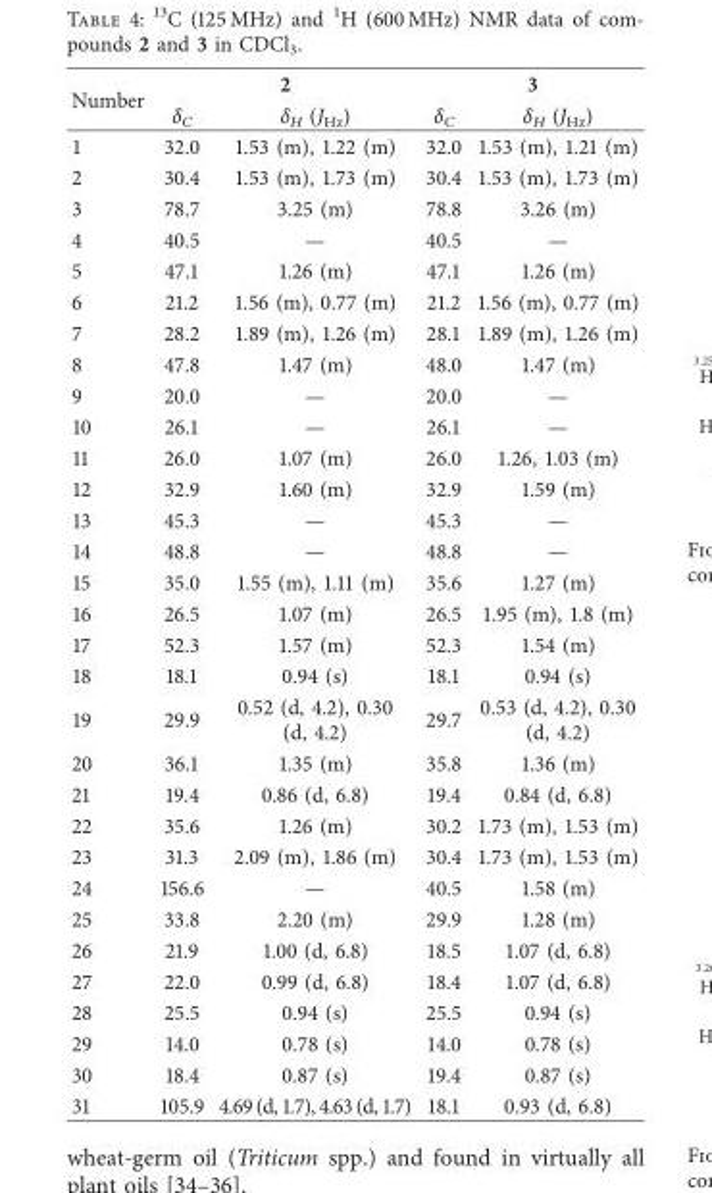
<table><thead><tr><td rowspan="2">Number</td><td colspan="2">2</td><td colspan="2">3</td></tr><tr><td>δ<sub>C</sub></td><td>δ<sub>H</sub> (J<sub>Hz</sub>)</td><td>δ<sub>C</sub></td><td>δ<sub>H</sub> (J<sub>Hz</sub>)</td></tr></thead><tbody><tr><td>1</td><td>32.0</td><td>1.53 (m), 1.22 (m)</td><td>32.0</td><td>1.53 (m), 1.21 (m)</td></tr><tr><td>2</td><td>30.4</td><td>1.53 (m), 1.73 (m)</td><td>30.4</td><td>1.53 (m), 1.73 (m)</td></tr><tr><td>3</td><td>78.7</td><td>3.25 (m)</td><td>78.8</td><td>3.26 (m)</td></tr><tr><td>4</td><td>40.5</td><td>—</td><td>40.5</td><td>—</td></tr><tr><td>5</td><td>47.1</td><td>1.26 (m)</td><td>47.1</td><td>1.26 (m)</td></tr><tr><td>6</td><td>21.2</td><td>1.56 (m), 0.77 (m)</td><td>21.2</td><td>1.56 (m), 0.77 (m)</td></tr><tr><td>7</td><td>28.2</td><td>1.89 (m), 1.26 (m)</td><td>28.1</td><td>1.89 (m), 1.26 (m)</td></tr><tr><td>8</td><td>47.8</td><td>1.47 (m)</td><td>48.0</td><td>1.47 (m)</td></tr><tr><td>9</td><td>20.0</td><td>—</td><td>20.0</td><td>—</td></tr><tr><td>10</td><td>26.1</td><td>—</td><td>26.1</td><td>—</td></tr><tr><td>11</td><td>26.0</td><td>1.07 (m)</td><td>26.0</td><td>1.26, 1.03 (m)</td></tr><tr><td>12</td><td>32.9</td><td>1.60 (m)</td><td>32.9</td><td>1.59 (m)</td></tr><tr><td>13</td><td>45.3</td><td>—</td><td>45.3</td><td>—</td></tr><tr><td>14</td><td>48.8</td><td>—</td><td>48.8</td><td>—</td></tr><tr><td>15</td><td>35.0</td><td>1.55 (m), 1.11 (m)</td><td>35.6</td><td>1.27 (m)</td></tr><tr><td>16</td><td>26.5</td><td>1.07 (m)</td><td>26.5</td><td>1.95 (m), 1.8 (m)</td></tr><tr><td>17</td><td>52.3</td><td>1.57 (m)</td><td>52.3</td><td>1.54 (m)</td></tr><tr><td>18</td><td>18.1</td><td>0.94 (s)</td><td>18.1</td><td>0.94 (s)</td></tr><tr><td>19</td><td>29.9</td><td>0.52 (d, 4.2), 0.30 (d, 4.2)</td><td>29.7</td><td>0.53 (d, 4.2), 0.30 (d, 4.2)</td></tr><tr><td>20</td><td>36.1</td><td>1.35 (m)</td><td>35.8</td><td>1.36 (m)</td></tr><tr><td>21</td><td>19.4</td><td>0.86 (d, 6.8)</td><td>19.4</td><td>0.84 (d, 6.8)</td></tr><tr><td>22</td><td>35.6</td><td>1.26 (m)</td><td>30.2</td><td>1.73 (m), 1.53 (m)</td></tr><tr><td>23</td><td>31.3</td><td>2.09 (m), 1.86 (m)</td><td>30.4</td><td>1.73 (m), 1.53 (m)</td></tr><tr><td>24</td><td>156.6</td><td>—</td><td>40.5</td><td>1.58 (m)</td></tr><tr><td>25</td><td>33.8</td><td>2.20 (m)</td><td>29.9</td><td>1.28 (m)</td></tr><tr><td>26</td><td>21.9</td><td>1.00 (d, 6.8)</td><td>18.5</td><td>1.07 (d, 6.8)</td></tr><tr><td>27</td><td>22.0</td><td>0.99 (d, 6.8)</td><td>18.4</td><td>1.07 (d, 6.8)</td></tr><tr><td>28</td><td>25.5</td><td>0.94 (s)</td><td>25.5</td><td>0.94 (s)</td></tr><tr><td>29</td><td>14.0</td><td>0.78 (s)</td><td>14.0</td><td>0.78 (s)</td></tr><tr><td>30</td><td>18.4</td><td>0.87 (s)</td><td>19.4</td><td>0.87 (s)</td></tr><tr><td>31</td><td>105.9</td><td>4.69 (d, 1.7), 4.63 (d, 1.7)</td><td>18.1</td><td>0.93 (d, 6.8)</td></tr></tbody></table>